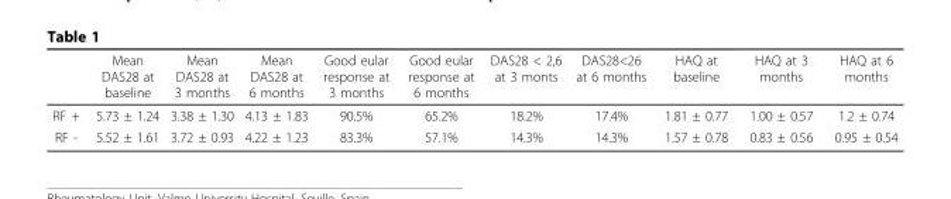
<table><thead><tr><td></td><td>Mean DAS28 at baseline</td><td>Mean DAS28 at 3 months</td><td>Mean DAS28 at 6 months</td><td>Good eular response at 3 months</td><td>Good eular response at 6 months</td><td>DAS28 &lt; 2,6 at 3 monts</td><td>DAS28&lt;26 at 6 months</td><td>HAQ at baseline</td><td>HAQ at 3 months</td><td>HAQ at 6 months</td></tr></thead><tbody><tr><td>RF +</td><td>5.73 ± 1.24</td><td>3.38 ± 1.30</td><td>4.13 ± 1.83</td><td>90.5%</td><td>65.2%</td><td>18.2%</td><td>17.4%</td><td>1.81 ± 0.77</td><td>1.00 ± 0.57</td><td>1.2 ± 0.74</td></tr><tr><td>RF -</td><td>5.52 ± 1.61</td><td>3.72 ± 0.93</td><td>4.22 ± 1.23</td><td>83.3%</td><td>57.1%</td><td>14.3%</td><td>14.3%</td><td>1.57 ± 0.78</td><td>0.83 ± 0.56</td><td>0.95 ± 0.54</td></tr></tbody></table>